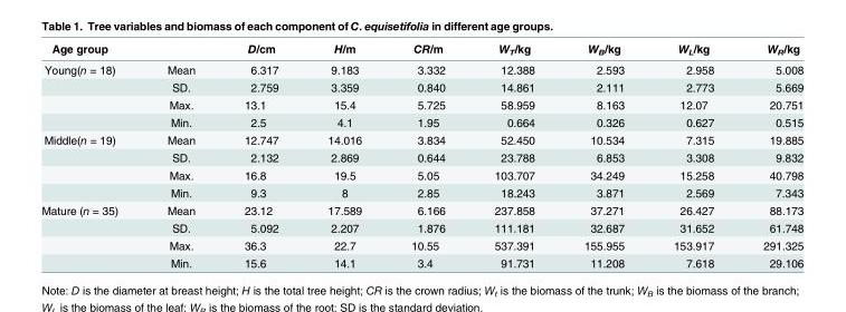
<table><thead><tr><td>Age group</td><td></td><td>D/cm</td><td>H/m</td><td>CR/m</td><td>W<sub>T</sub>/kg</td><td>W<sub>B</sub>/kg</td><td>W<sub>L</sub>/kg</td><td>W<sub>R</sub>/kg</td></tr></thead><tbody><tr><td rowspan="4">Young(n = 18)</td><td>Mean</td><td>6.317</td><td>9.183</td><td>3.332</td><td>12.388</td><td>2.593</td><td>2.958</td><td>5.008</td></tr><tr><td>SD.</td><td>2.759</td><td>3.359</td><td>0.840</td><td>14.861</td><td>2.111</td><td>2.773</td><td>5.669</td></tr><tr><td>Max.</td><td>13.1</td><td>15.4</td><td>5.725</td><td>58.959</td><td>8.163</td><td>12.07</td><td>20.751</td></tr><tr><td>Min.</td><td>2.5</td><td>4.1</td><td>1.95</td><td>0.664</td><td>0.326</td><td>0.627</td><td>0.515</td></tr><tr><td rowspan="4">Middle(n = 19)</td><td>Mean</td><td>12.747</td><td>14.016</td><td>3.834</td><td>52.450</td><td>10.534</td><td>7.315</td><td>19.885</td></tr><tr><td>SD.</td><td>2.132</td><td>2.869</td><td>0.644</td><td>23.788</td><td>6.853</td><td>3.308</td><td>9.832</td></tr><tr><td>Max.</td><td>16.8</td><td>19.5</td><td>5.05</td><td>103.707</td><td>34.249</td><td>15.258</td><td>40.798</td></tr><tr><td>Min.</td><td>9.3</td><td>8</td><td>2.85</td><td>18.243</td><td>3.871</td><td>2.569</td><td>7.343</td></tr><tr><td rowspan="4">Mature (n = 35)</td><td>Mean</td><td>23.12</td><td>17.589</td><td>6.166</td><td>237.858</td><td>37.271</td><td>26.427</td><td>88.173</td></tr><tr><td>SD.</td><td>5.092</td><td>2.207</td><td>1.876</td><td>111.181</td><td>32.687</td><td>31.652</td><td>61.748</td></tr><tr><td>Max.</td><td>36.3</td><td>22.7</td><td>10.55</td><td>537.391</td><td>155.955</td><td>153.917</td><td>291.325</td></tr><tr><td>Min.</td><td>15.6</td><td>14.1</td><td>3.4</td><td>91.731</td><td>11.208</td><td>7.618</td><td>29.106</td></tr></tbody></table>